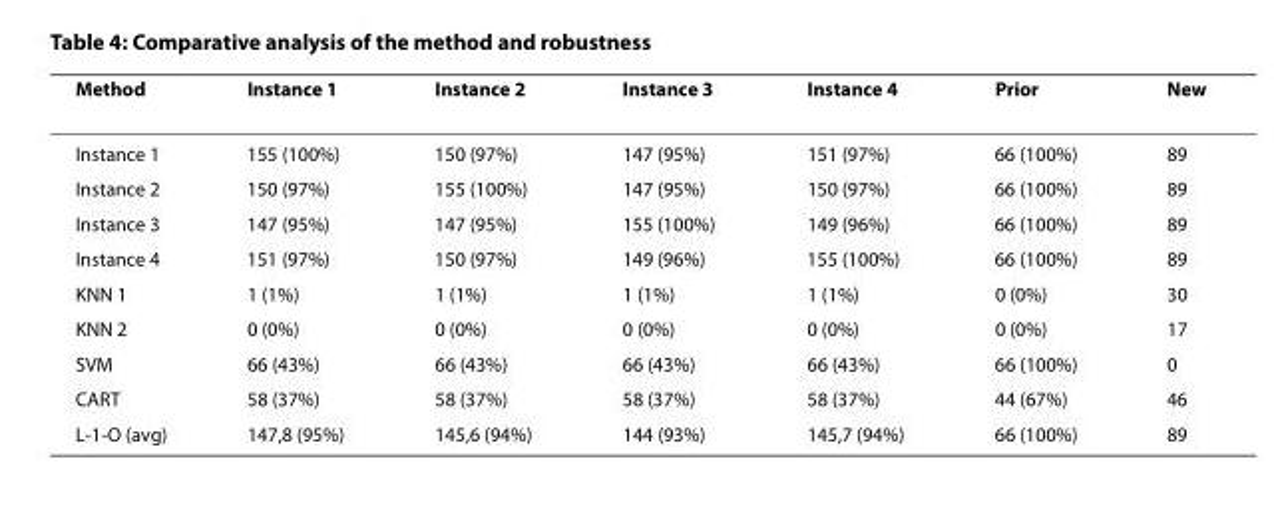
<table><thead><tr><td>Method</td><td>Instance 1</td><td>Instance 2</td><td>Instance 3</td><td>Instance 4</td><td>Prior</td><td>New</td></tr></thead><tbody><tr><td>Instance 1</td><td>155 (100%)</td><td>150 (97%)</td><td>147 (95%)</td><td>151 (97%)</td><td>66 (100%)</td><td>89</td></tr><tr><td>Instance 2</td><td>150 (97%)</td><td>155 (100%)</td><td>147 (95%)</td><td>150 (97%)</td><td>66 (100%)</td><td>89</td></tr><tr><td>Instance 3</td><td>147 (95%)</td><td>147 (95%)</td><td>155 (100%)</td><td>149 (96%)</td><td>66 (100%)</td><td>89</td></tr><tr><td>Instance 4</td><td>151 (97%)</td><td>150 (97%)</td><td>149 (96%)</td><td>155 (100%)</td><td>66 (100%)</td><td>89</td></tr><tr><td>KNN 1</td><td>1 (1%)</td><td>1 (1%)</td><td>1 (1%)</td><td>1 (1%)</td><td>0 (0%)</td><td>30</td></tr><tr><td>KNN 2</td><td>0 (0%)</td><td>0 (0%)</td><td>0 (0%)</td><td>0 (0%)</td><td>0 (0%)</td><td>17</td></tr><tr><td>SVM</td><td>66 (43%)</td><td>66 (43%)</td><td>66 (43%)</td><td>66 (43%)</td><td>66 (100%)</td><td>0</td></tr><tr><td>CART</td><td>58 (37%)</td><td>58 (37%)</td><td>58 (37%)</td><td>58 (37%)</td><td>44 (67%)</td><td>46</td></tr><tr><td>L-1-O (avg)</td><td>147,8 (95%)</td><td>145,6 (94%)</td><td>144 (93%)</td><td>145,7 (94%)</td><td>66 (100%)</td><td>89</td></tr></tbody></table>